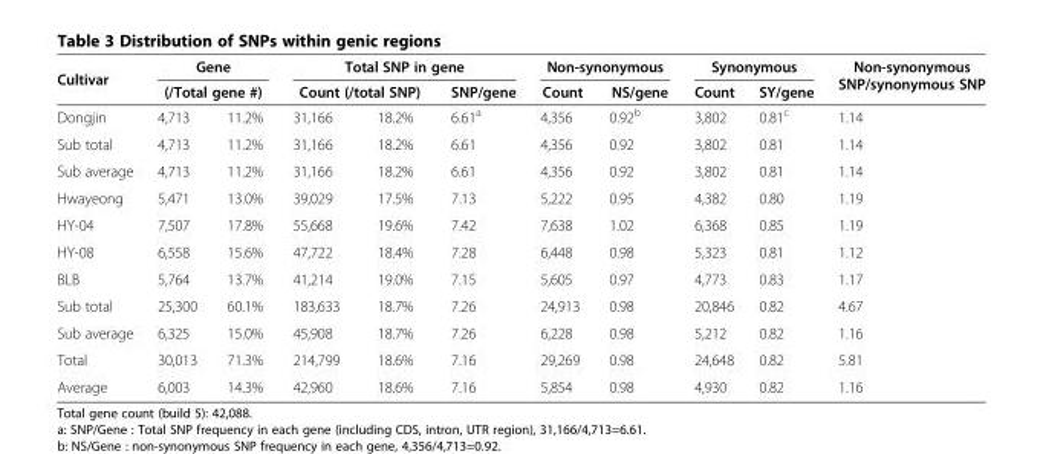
<table><thead><tr><td rowspan="3">Cultivar Dongjin</td><td rowspan="2" colspan="2">Gene (/Total gene #)</td><td colspan="3">Total SNP in gene</td><td colspan="2">Non-synonymous</td><td colspan="2">Synonymous</td><td rowspan="3">Non-synonymous SNP/synonymous SNP 1.14</td></tr><tr><td colspan="2">Count (/total SNP)</td><td rowspan="2">SNP/gene 6.61<sup>a</sup></td><td rowspan="2">Count 4,356</td><td rowspan="2">NS/gene 0.92<sup>b</sup></td><td rowspan="2">Count 3,802</td><td rowspan="2">SY/gene 0.81<sup>c</sup></td></tr><tr><td>4,713</td><td>11.2%</td><td>31,166</td><td>18.2%</td></tr></thead><tbody><tr><td>Sub total</td><td>4,713</td><td>11.2%</td><td>31,166</td><td>18.2%</td><td>6.61</td><td>4,356</td><td>0.92</td><td>3,802</td><td>0.81</td><td>1.14</td></tr><tr><td>Sub average</td><td>4,713</td><td>11.2%</td><td>31,166</td><td>18.2%</td><td>6.61</td><td>4,356</td><td>0.92</td><td>3,802</td><td>0.81</td><td>1.14</td></tr><tr><td>Hwayeong</td><td>5,471</td><td>13.0%</td><td>39,029</td><td>17.5%</td><td>7.13</td><td>5,222</td><td>0.95</td><td>4,382</td><td>0.80</td><td>1.19</td></tr><tr><td>HY-04</td><td>7,507</td><td>17.8%</td><td>55,668</td><td>19.6%</td><td>7.42</td><td>7,638</td><td>1.02</td><td>6,368</td><td>0.85</td><td>1.19</td></tr><tr><td>HY-08</td><td>6,558</td><td>15.6%</td><td>47,722</td><td>18.4%</td><td>7.28</td><td>6,448</td><td>0.98</td><td>5,323</td><td>0.81</td><td>1.12</td></tr><tr><td>BLB</td><td>5,764</td><td>13.7%</td><td>41,214</td><td>19.0%</td><td>7.15</td><td>5,605</td><td>0.97</td><td>4,773</td><td>0.83</td><td>1.17</td></tr><tr><td>Sub total</td><td>25,300</td><td>60.1%</td><td>183,633</td><td>18.7%</td><td>7.26</td><td>24,913</td><td>0.98</td><td>20,846</td><td>0.82</td><td>4.67</td></tr><tr><td>Sub average</td><td>6,325</td><td>15.0%</td><td>45,908</td><td>18.7%</td><td>7.26</td><td>6,228</td><td>0.98</td><td>5,212</td><td>0.82</td><td>1.16</td></tr><tr><td>Total</td><td>30,013</td><td>71.3%</td><td>214,799</td><td>18.6%</td><td>7.16</td><td>29,269</td><td>0.98</td><td>24,648</td><td>0.82</td><td>5.81</td></tr><tr><td>Average</td><td>6,003</td><td>14.3%</td><td>42,960</td><td>18.6%</td><td>7.16</td><td>5,854</td><td>0.98</td><td>4,930</td><td>0.82</td><td>1.16</td></tr></tbody></table>